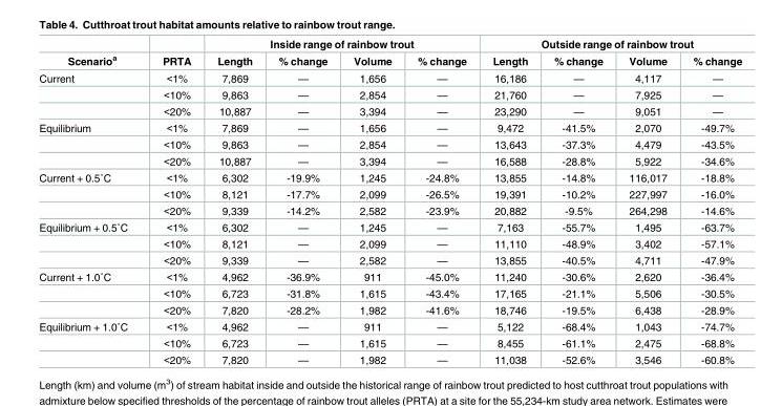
<table><thead><tr><td rowspan="2">Scenario<sup>a</sup></td><td rowspan="2">PRTA</td><td colspan="4">Inside range of rainbow trout</td><td colspan="4">Outside range of rainbow trout</td></tr><tr><td>Length</td><td>% change</td><td>Volume</td><td>% change</td><td>Length</td><td>% change</td><td>Volume</td><td>% change</td></tr></thead><tbody><tr><td rowspan="3">Current</td><td>&lt;1%</td><td>7,869</td><td>—</td><td>1,656</td><td>—</td><td>16,186</td><td>—</td><td>4,117</td><td>—</td></tr><tr><td>&lt;10%</td><td>9,863</td><td>—</td><td>2,854</td><td>—</td><td>21,760</td><td>—</td><td>7,925</td><td>—</td></tr><tr><td>&lt;20%</td><td>10,887</td><td>—</td><td>3,394</td><td>—</td><td>23,290</td><td>—</td><td>9,051</td><td>—</td></tr><tr><td rowspan="3">Equilibrium</td><td>&lt;1%</td><td>7,869</td><td>—</td><td>1,656</td><td>—</td><td>9,472</td><td>-41.5%</td><td>2,070</td><td>-49.7%</td></tr><tr><td>&lt;10%</td><td>9,863</td><td>—</td><td>2,854</td><td>—</td><td>13,643</td><td>-37.3%</td><td>4,479</td><td>-43.5%</td></tr><tr><td>&lt;20%</td><td>10,887</td><td>—</td><td>3,394</td><td>—</td><td>16,588</td><td>-28.8%</td><td>5,922</td><td>-34.6%</td></tr><tr><td rowspan="3">Current + 0.5˚C</td><td>&lt;1%</td><td>6,302</td><td>-19.9%</td><td>1,245</td><td>-24.8%</td><td>13,855</td><td>-14.8%</td><td>116,017</td><td>-18.8%</td></tr><tr><td>&lt;10%</td><td>8,121</td><td>-17.7%</td><td>2,099</td><td>-26.5%</td><td>19,391</td><td>-10.2%</td><td>227,997</td><td>-16.0%</td></tr><tr><td>&lt;20%</td><td>9,339</td><td>-14.2%</td><td>2,582</td><td>-23.9%</td><td>20,882</td><td>-9.5%</td><td>264,298</td><td>-14.6%</td></tr><tr><td rowspan="3">Equilibrium + 0.5˚C</td><td>&lt;1%</td><td>6,302</td><td>—</td><td>1,245</td><td>—</td><td>7,163</td><td>-55.7%</td><td>1,495</td><td>-63.7%</td></tr><tr><td>&lt;10%</td><td>8,121</td><td>—</td><td>2,099</td><td>—</td><td>11,110</td><td>-48.9%</td><td>3,402</td><td>-57.1%</td></tr><tr><td>&lt;20%</td><td>9,339</td><td>—</td><td>2,582</td><td>—</td><td>13,855</td><td>-40.5%</td><td>4,711</td><td>-47.9%</td></tr><tr><td rowspan="3">Current + 1.0˚C</td><td>&lt;1%</td><td>4,962</td><td>-36.9%</td><td>911</td><td>-45.0%</td><td>11,240</td><td>-30.6%</td><td>2,620</td><td>-36.4%</td></tr><tr><td>&lt;10%</td><td>6,723</td><td>-31.8%</td><td>1,615</td><td>-43.4%</td><td>17,165</td><td>-21.1%</td><td>5,506</td><td>-30.5%</td></tr><tr><td>&lt;20%</td><td>7,820</td><td>-28.2%</td><td>1,982</td><td>-41.6%</td><td>18,746</td><td>-19.5%</td><td>6,438</td><td>-28.9%</td></tr><tr><td rowspan="3">Equilibrium + 1.0˚C</td><td>&lt;1%</td><td>4,962</td><td>—</td><td>911</td><td>—</td><td>5,122</td><td>-68.4%</td><td>1,043</td><td>-74.7%</td></tr><tr><td>&lt;10%</td><td>6,723</td><td>—</td><td>1,615</td><td>—</td><td>8,455</td><td>-61.1%</td><td>2,475</td><td>-68.8%</td></tr><tr><td>&lt;20%</td><td>7,820</td><td>—</td><td>1,982</td><td>—</td><td>11,038</td><td>-52.6%</td><td>3,546</td><td>-60.8%</td></tr></tbody></table>